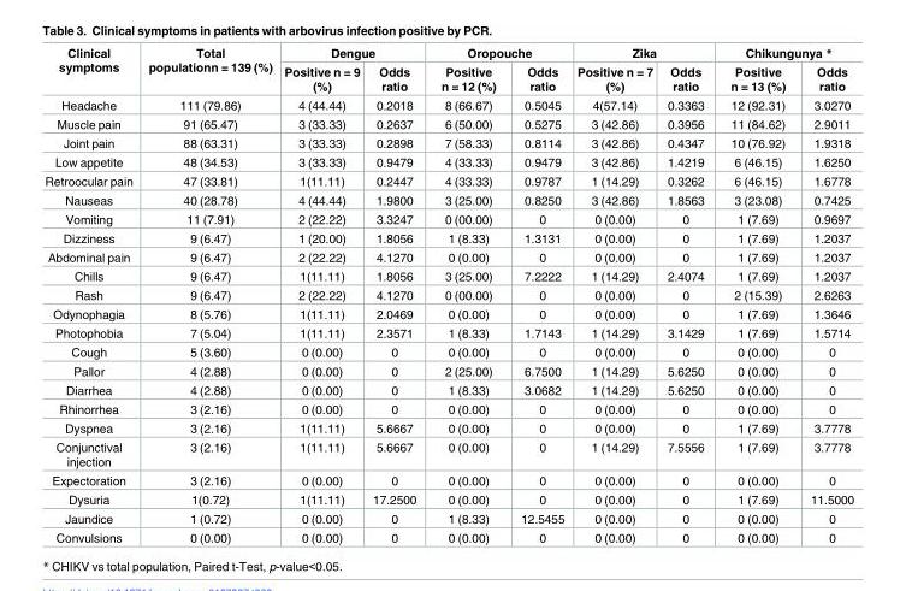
<table><thead><tr><td rowspan="2">Clinical symptoms</td><td rowspan="2">Total populationn = 139 (%)</td><td colspan="2">Dengue</td><td colspan="2">Oropouche</td><td colspan="2">Zika</td><td colspan="2">Chikungunya *</td></tr><tr><td>Positive n = 9 (%)</td><td>Odds ratio</td><td>Positive n = 12 (%)</td><td>Odds ratio</td><td>Positive n = 7 (%)</td><td>Odds ratio</td><td>Positive n = 13 (%)</td><td>Odds ratio</td></tr></thead><tbody><tr><td>Headache</td><td>111 (79.86)</td><td>4 (44.44)</td><td>0.2018</td><td>8 (66.67)</td><td>0.5045</td><td>4(57.14)</td><td>0.3363</td><td>12 (92.31)</td><td>3.0270</td></tr><tr><td>Muscle pain</td><td>91 (65.47)</td><td>3 (33.33)</td><td>0.2637</td><td>6 (50.00)</td><td>0.5275</td><td>3 (42.86)</td><td>0.3956</td><td>11 (84.62)</td><td>2.9011</td></tr><tr><td>Joint pain</td><td>88 (63.31)</td><td>3 (33.33)</td><td>0.2898</td><td>7 (58.33)</td><td>0.8114</td><td>3 (42.86)</td><td>0.4347</td><td>10 (76.92)</td><td>1.9318</td></tr><tr><td>Low appetite</td><td>48 (34.53)</td><td>3 (33.33)</td><td>0.9479</td><td>4 (33.33)</td><td>0.9479</td><td>3 (42.86)</td><td>1.4219</td><td>6 (46.15)</td><td>1.6250</td></tr><tr><td>Retroocular pain</td><td>47 (33.81)</td><td>1(11.11)</td><td>0.2447</td><td>4 (33.33)</td><td>0.9787</td><td>1 (14.29)</td><td>0.3262</td><td>6 (46.15)</td><td>1.6778</td></tr><tr><td>Nauseas</td><td>40 (28.78)</td><td>4 (44.44)</td><td>1.9800</td><td>3 (25.00)</td><td>0.8250</td><td>3 (42.86)</td><td>1.8563</td><td>3 (23.08)</td><td>0.7425</td></tr><tr><td>Vomiting</td><td>11 (7.91)</td><td>2 (22.22)</td><td>3.3247</td><td>0 (00.00)</td><td>0</td><td>0 (0.00)</td><td>0</td><td>1 (7.69)</td><td>0.9697</td></tr><tr><td>Dizziness</td><td>9 (6.47)</td><td>1 (20.00)</td><td>1.8056</td><td>1 (8.33)</td><td>1.3131</td><td>0 (0.00)</td><td>0</td><td>1 (7.69)</td><td>1.2037</td></tr><tr><td>Abdominal pain</td><td>9 (6.47)</td><td>2 (22.22)</td><td>4.1270</td><td>0 (0.00)</td><td>0</td><td>0 (0.00)</td><td>0</td><td>1 (7.69)</td><td>1.2037</td></tr><tr><td>Chills</td><td>9 (6.47)</td><td>1(11.11)</td><td>1.8056</td><td>3 (25.00)</td><td>7.2222</td><td>1 (14.29)</td><td>2.4074</td><td>1 (7.69)</td><td>1.2037</td></tr><tr><td>Rash</td><td>9 (6.47)</td><td>2 (22.22)</td><td>4.1270</td><td>0 (00.00)</td><td>0</td><td>0 (0.00)</td><td>0</td><td>2 (15.39)</td><td>2.6263</td></tr><tr><td>Odynophagia</td><td>8 (5.76)</td><td>1(11.11)</td><td>2.0469</td><td>0 (0.00)</td><td>0</td><td>0 (0.00)</td><td>0</td><td>1 (7.69)</td><td>1.3646</td></tr><tr><td>Photophobia</td><td>7 (5.04)</td><td>1(11.11)</td><td>2.3571</td><td>1 (8.33)</td><td>1.7143</td><td>1 (14.29)</td><td>3.1429</td><td>1 (7.69)</td><td>1.5714</td></tr><tr><td>Cough</td><td>5 (3.60)</td><td>0 (0.00)</td><td>0</td><td>0 (0.00)</td><td>0</td><td>0 (0.00)</td><td>0</td><td>0 (0.00)</td><td>0</td></tr><tr><td>Pallor</td><td>4 (2.88)</td><td>0 (0.00)</td><td>0</td><td>2 (25.00)</td><td>6.7500</td><td>1 (14.29)</td><td>5.6250</td><td>0 (0.00)</td><td>0</td></tr><tr><td>Diarrhea</td><td>4 (2.88)</td><td>0 (0.00)</td><td>0</td><td>1 (8.33)</td><td>3.0682</td><td>1 (14.29)</td><td>5.6250</td><td>0 (0.00)</td><td>0</td></tr><tr><td>Rhinorrhea</td><td>3 (2.16)</td><td>0 (0.00)</td><td>0</td><td>0 (0.00)</td><td>0</td><td>0 (0.00)</td><td>0</td><td>0 (0.00)</td><td>0</td></tr><tr><td>Dyspnea</td><td>3 (2.16)</td><td>1(11.11)</td><td>5.6667</td><td>0 (0.00)</td><td>0</td><td>0 (0.00)</td><td>0</td><td>1 (7.69)</td><td>3.7778</td></tr><tr><td>Conjunctival injection</td><td>3 (2.16)</td><td>1(11.11)</td><td>5.6667</td><td>0 (0.00)</td><td>0</td><td>1 (14.29)</td><td>7.5556</td><td>1 (7.69)</td><td>3.7778</td></tr><tr><td>Expectoration</td><td>3 (2.16)</td><td>0 (0.00)</td><td>0</td><td>0 (0.00)</td><td>0</td><td>0 (0.00)</td><td>0</td><td>0 (0.00)</td><td>0</td></tr><tr><td>Dysuria</td><td>1(0.72)</td><td>1(11.11)</td><td>17.2500</td><td>0 (0.00)</td><td>0</td><td>0 (0.00)</td><td>0</td><td>1 (7.69)</td><td>11.5000</td></tr><tr><td>Jaundice</td><td>1 (0.72)</td><td>0 (0.00)</td><td>0</td><td>1 (8.33)</td><td>12.5455</td><td>0 (0.00)</td><td>0</td><td>0 (0.00)</td><td>0</td></tr><tr><td>Convulsions</td><td>0 (0.00)</td><td>0 (0.00)</td><td>0</td><td>0 (0.00)</td><td>0</td><td>0 (0.00)</td><td>0</td><td>0 (0.00)</td><td>0</td></tr></tbody></table>